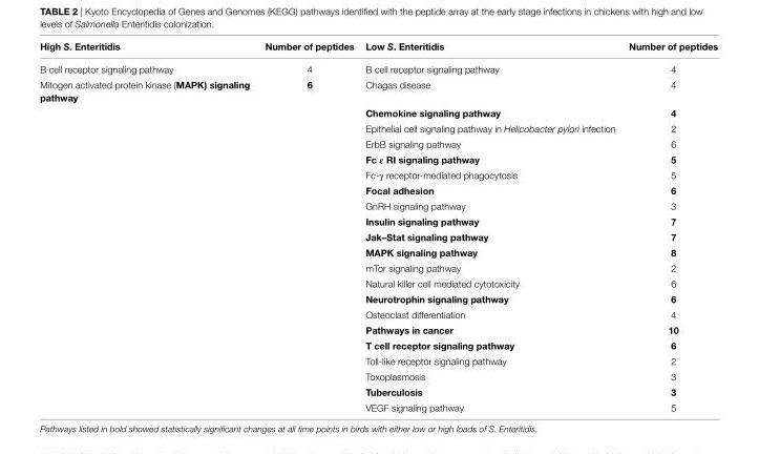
<table><thead><tr><td>high S. enteritidis</td><td>number of peptides</td><td>low S. enteritidis</td><td>number of peptides</td></tr></thead><tbody><tr><td>B cell receptor signaling pathway</td><td>4</td><td>B cell receptor signaling pathway</td><td>4</td></tr><tr><td rowspan="21">Mitogen activated protein kinase (MaPK) signaling pathway</td><td>6</td><td>Chagas disease</td><td>4</td></tr><tr><td></td><td>chemokine signaling pathway</td><td>4</td></tr><tr><td></td><td>Epithelial cell signaling pathway in Helicobacter pylori infection</td><td>2</td></tr><tr><td></td><td>ErbB signaling pathway</td><td>6</td></tr><tr><td></td><td>Fc ε ri signaling pathway</td><td>5</td></tr><tr><td></td><td>Fc-γ receptor-mediated phagocytosis</td><td>5</td></tr><tr><td></td><td>Focal adhesion</td><td>6</td></tr><tr><td></td><td>GnRH signaling pathway</td><td>3</td></tr><tr><td></td><td>insulin signaling pathway</td><td>7</td></tr><tr><td></td><td>Jak–stat signaling pathway</td><td>7</td></tr><tr><td></td><td>MaPK signaling pathway</td><td>8</td></tr><tr><td></td><td>mTor signaling pathway</td><td>2</td></tr><tr><td></td><td>Natural killer cell mediated cytotoxicity</td><td>6</td></tr><tr><td></td><td>neurotrophin signaling pathway</td><td>6</td></tr><tr><td></td><td>Osteoclast differentiation</td><td>4</td></tr><tr><td></td><td>Pathways in cancer</td><td>10</td></tr><tr><td></td><td>T cell receptor signaling pathway</td><td>6</td></tr><tr><td></td><td>Toll-like receptor signaling pathway</td><td>2</td></tr><tr><td></td><td>Toxoplasmosis</td><td>3</td></tr><tr><td></td><td>Tuberculosis</td><td>3</td></tr><tr><td></td><td>VEGF signaling pathway</td><td>5</td></tr></tbody></table>